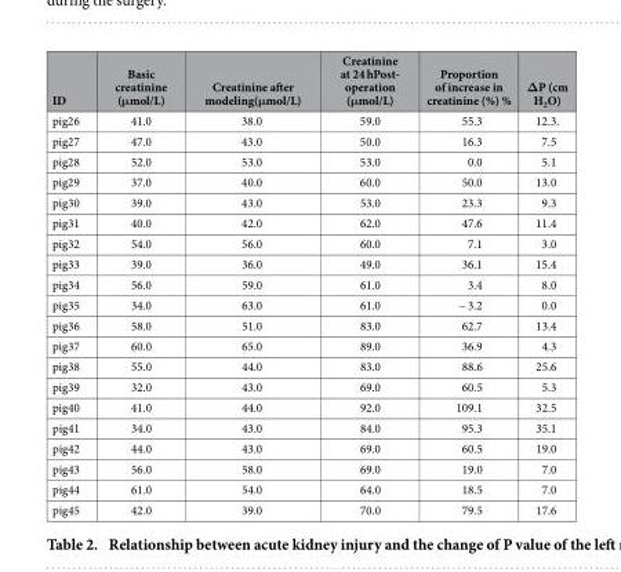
<table><thead><tr><td>ID</td><td>Basic creatinine (μmol/L)</td><td>Creatinine after modeling(μmol/L)</td><td>Creatinine at 24 hPost- operation (μmol/L)</td><td>Proportion of increase in creatinine (%) %</td><td>ΔP (cm H<sub>2</sub>O)</td></tr></thead><tbody><tr><td>pig26</td><td>41.0</td><td>38.0</td><td>59.0</td><td>55.3</td><td>12.3.</td></tr><tr><td>pig27</td><td>47.0</td><td>43.0</td><td>50.0</td><td>16.3</td><td>7.5</td></tr><tr><td>pig28</td><td>52.0</td><td>53.0</td><td>53.0</td><td>0.0</td><td>5.1</td></tr><tr><td>pig29</td><td>37.0</td><td>40.0</td><td>60.0</td><td>50.0</td><td>13.0</td></tr><tr><td>pig30</td><td>39.0</td><td>43.0</td><td>53.0</td><td>23.3</td><td>9.3</td></tr><tr><td>pig31</td><td>40.0</td><td>42.0</td><td>62.0</td><td>47.6</td><td>11.4</td></tr><tr><td>pig32</td><td>54.0</td><td>56.0</td><td>60.0</td><td>7.1</td><td>3.0</td></tr><tr><td>pig33</td><td>39.0</td><td>36.0</td><td>49.0</td><td>36.1</td><td>15.4</td></tr><tr><td>pig34</td><td>56.0</td><td>59.0</td><td>61.0</td><td>3.4</td><td>8.0</td></tr><tr><td>pig35</td><td>34.0</td><td>63.0</td><td>61.0</td><td>− 3.2</td><td>0.0</td></tr><tr><td>pig36</td><td>58.0</td><td>51.0</td><td>83.0</td><td>62.7</td><td>13.4</td></tr><tr><td>pig37</td><td>60.0</td><td>65.0</td><td>89.0</td><td>36.9</td><td>4.3</td></tr><tr><td>pig38</td><td>55.0</td><td>44.0</td><td>83.0</td><td>88.6</td><td>25.6</td></tr><tr><td>pig39</td><td>32.0</td><td>43.0</td><td>69.0</td><td>60.5</td><td>5.3</td></tr><tr><td>pig40</td><td>41.0</td><td>44.0</td><td>92.0</td><td>109.1</td><td>32.5</td></tr><tr><td>pig41</td><td>34.0</td><td>43.0</td><td>84.0</td><td>95.3</td><td>35.1</td></tr><tr><td>pig42</td><td>44.0</td><td>43.0</td><td>69.0</td><td>60.5</td><td>19.0</td></tr><tr><td>pig43</td><td>56.0</td><td>58.0</td><td>69.0</td><td>19.0</td><td>7.0</td></tr><tr><td>pig44</td><td>61.0</td><td>54.0</td><td>64.0</td><td>18.5</td><td>7.0</td></tr><tr><td>pig45</td><td>42.0</td><td>39.0</td><td>70.0</td><td>79.5</td><td>17.6</td></tr></tbody></table>